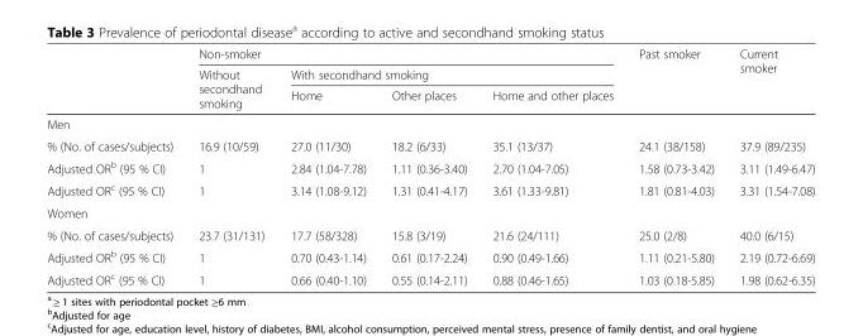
<table><thead><tr><td rowspan="3"></td><td colspan="4">Non-smoker</td><td rowspan="3">Past smoker</td><td rowspan="3">Current smoker</td></tr><tr><td rowspan="2">Without secondhand smoking</td><td colspan="3">With secondhand smoking</td></tr><tr><td>Home</td><td>Other places</td><td>Home and other places</td></tr></thead><tbody><tr><td colspan="7">Men</td></tr><tr><td>% (No. of cases/subjects)</td><td>16.9 (10/59)</td><td>27.0 (11/30)</td><td>18.2 (6/33)</td><td>35.1 (13/37)</td><td>24.1 (38/158)</td><td>37.9 (89/235)</td></tr><tr><td>Adjusted OR<sup>b</sup> (95 % CI)</td><td>1</td><td>2.84 (1.04-7.78)</td><td>1.11 (0.36-3.40)</td><td>2.70 (1.04-7.05)</td><td>1.58 (0.73-3.42)</td><td>3.11 (1.49-6.47)</td></tr><tr><td>Adjusted OR<sup>c</sup> (95 % CI)</td><td>1</td><td>3.14 (1.08-9.12)</td><td>1.31 (0.41-4.17)</td><td>3.61 (1.33-9.81)</td><td>1.81 (0.81-4.03)</td><td>3.31 (1.54-7.08)</td></tr><tr><td colspan="7">Women</td></tr><tr><td>% (No. of cases/subjects)</td><td>23.7 (31/131)</td><td>17.7 (58/328)</td><td>15.8 (3/19)</td><td>21.6 (24/111)</td><td>25.0 (2/8)</td><td>40.0 (6/15)</td></tr><tr><td>Adjusted OR<sup>b</sup> (95 % CI)</td><td>1</td><td>0.70 (0.43-1.14)</td><td>0.61 (0.17-2.24)</td><td>0.90 (0.49-1.66)</td><td>1.11 (0.21-5.80)</td><td>2.19 (0.72-6.69)</td></tr><tr><td>Adjusted OR<sup>c</sup> (95 % CI)</td><td>1</td><td>0.66 (0.40-1.10)</td><td>0.55 (0.14-2.11)</td><td>0.88 (0.46-1.65)</td><td>1.03 (0.18-5.85)</td><td>1.98 (0.62-6.35)</td></tr></tbody></table>